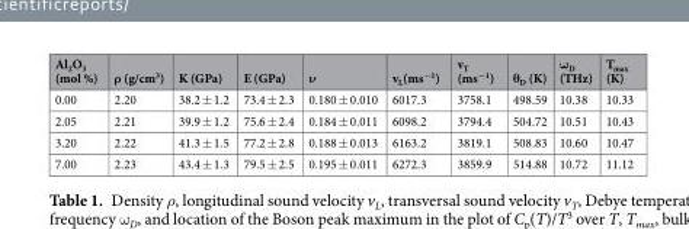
<table><thead><tr><td>Al<sub>2</sub>O<sub>3</sub> (mol %)</td><td>ρ (g/cm<sup>3</sup>)</td><td>K (GPa)</td><td>E (GPa)</td><td>ν</td><td>v<sub>L</sub>(ms<sup>−1</sup>)</td><td>v<sub>T</sub> (ms<sup>−1</sup>)</td><td>θ<sub>D</sub> (K)</td><td>ω<sub>D</sub> (THz)</td><td>T<sub>max</sub> (K)</td></tr></thead><tbody><tr><td>0.00</td><td>2.20</td><td>38.2 ± 1.2</td><td>73.4 ± 2.3</td><td>0.180 ± 0.010</td><td>6017.3</td><td>3758.1</td><td>498.59</td><td>10.38</td><td>10.33</td></tr><tr><td>2.05</td><td>2.21</td><td>39.9 ± 1.2</td><td>75.6 ± 2.4</td><td>0.184 ± 0.011</td><td>6098.2</td><td>3794.4</td><td>504.72</td><td>10.51</td><td>10.43</td></tr><tr><td>3.20</td><td>2.22</td><td>41.3 ± 1.5</td><td>77.2 ± 2.8</td><td>0.188 ± 0.013</td><td>6163.2</td><td>3819.1</td><td>508.83</td><td>10.60</td><td>10.47</td></tr><tr><td>7.00</td><td>2.23</td><td>43.4 ± 1.3</td><td>79.5 ± 2.5</td><td>0.195 ± 0.011</td><td>6272.3</td><td>3859.9</td><td>514.88</td><td>10.72</td><td>11.12</td></tr></tbody></table>